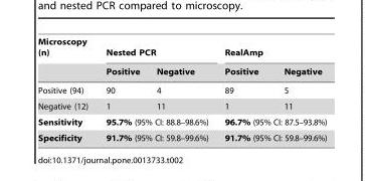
<table><thead><tr><td rowspan="2">Microscopy (n)</td><td colspan="2">Nested PCR</td><td colspan="2">RealAmp</td></tr><tr><td>Positive</td><td>Negative</td><td>Positive</td><td>Negative</td></tr></thead><tbody><tr><td>Positive (94)</td><td>90</td><td>4</td><td>89</td><td>5</td></tr><tr><td>Negative (12)</td><td>1</td><td>11</td><td>1</td><td>11</td></tr><tr><td>Sensitivity</td><td colspan="2">95.7% (95% CI: 88.8–98.6%)</td><td colspan="2">96.7% (95% CI: 87.5–93.8%)</td></tr><tr><td>Specificity</td><td colspan="2">91.7% (95% CI: 59.8–99.6%)</td><td colspan="2">91.7% (95% CI: 59.8–99.6%)</td></tr></tbody></table>